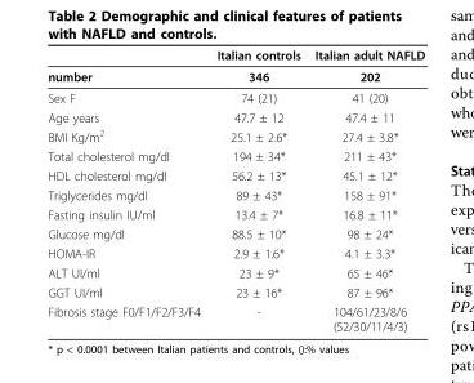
<table><thead><tr><td></td><td>Italian controls</td><td>Italian adult NAFLD</td></tr></thead><tbody><tr><td>number</td><td>346</td><td>202</td></tr><tr><td>Sex F</td><td>74 (21)</td><td>41 (20)</td></tr><tr><td>Age years</td><td>47.7 ± 12</td><td>47.4 ± 11</td></tr><tr><td>BMI Kg/m<sup>2</sup></td><td>25.1 ± 2.6*</td><td>27.4 ± 3.8*</td></tr><tr><td>Total cholesterol mg/dl</td><td>194 ± 34*</td><td>211 ± 43*</td></tr><tr><td>HDL cholesterol mg/dl</td><td>56.2 ± 13*</td><td>45.1 ± 12*</td></tr><tr><td>Triglycerides mg/dl</td><td>89 ± 43*</td><td>158 ± 91*</td></tr><tr><td>Fasting insulin IU/ml</td><td>13.4 ± 7*</td><td>16.8 ± 11*</td></tr><tr><td>Glucose mg/dl</td><td>88.5 ± 10*</td><td>98 ± 24*</td></tr><tr><td>HOMA-IR</td><td>2.9 ± 1.6*</td><td>4.1 ± 3.3*</td></tr><tr><td>ALT UI/ml</td><td>23 ± 9*</td><td>65 ± 46*</td></tr><tr><td>GGT UI/ml</td><td>23 ± 16*</td><td>87 ± 96*</td></tr><tr><td>Fibrosis stage F0/F1/F2/F3/F4</td><td>-</td><td>104/61/23/8/6 (52/30/11/4/3)</td></tr></tbody></table>